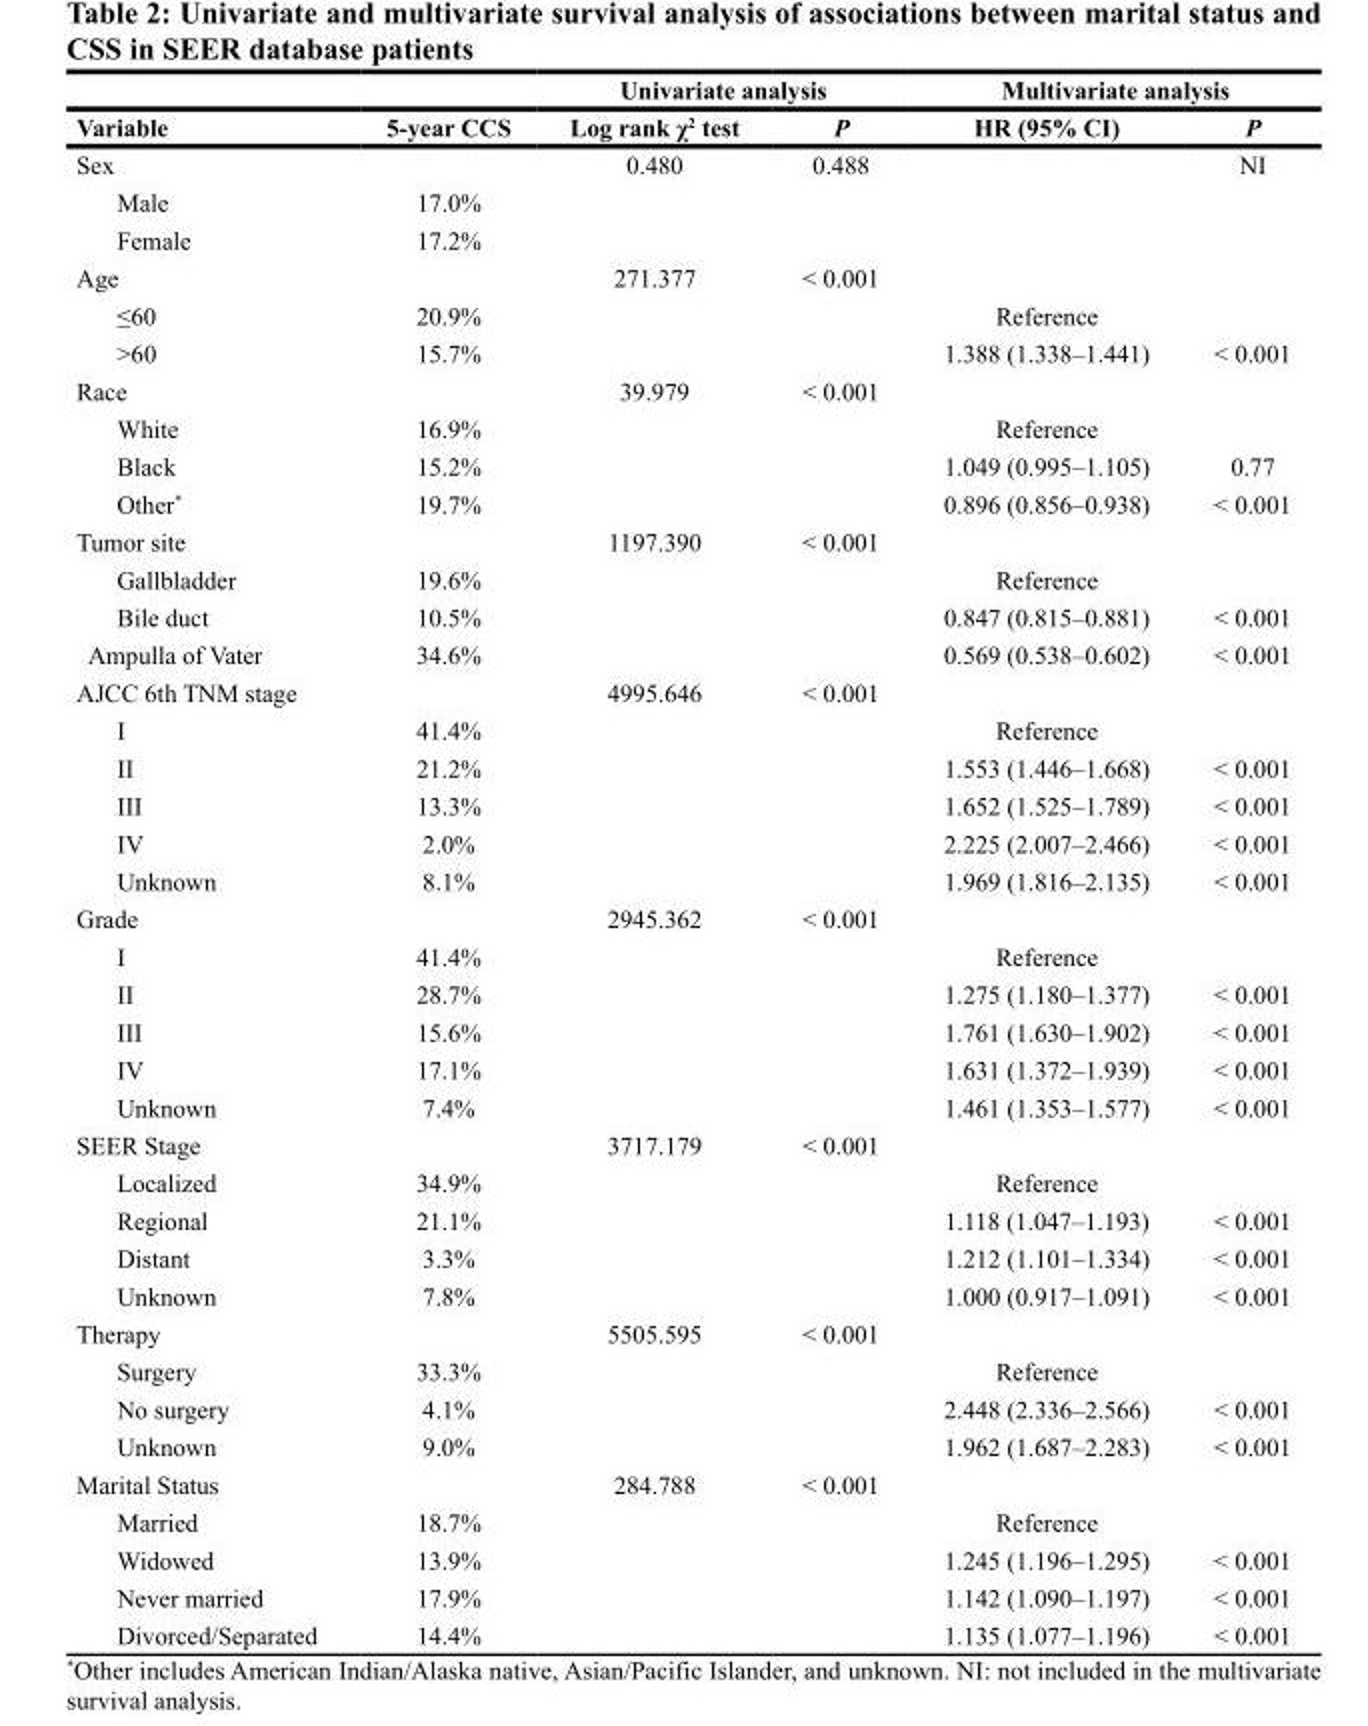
<table><thead><tr><td rowspan="2">Variable</td><td rowspan="2">5-year CCS</td><td colspan="2">Univariate analysis</td><td colspan="2">Multivariate analysis</td></tr><tr><td>Log rank χ<sup>2</sup> test</td><td>P</td><td>HR (95% CI)</td><td>P</td></tr></thead><tbody><tr><td>Sex</td><td></td><td>0.480</td><td>0.488</td><td></td><td>NI</td></tr><tr><td>Male</td><td>17.0%</td><td></td><td></td><td></td><td></td></tr><tr><td>Female</td><td>17.2%</td><td></td><td></td><td></td><td></td></tr><tr><td>Age</td><td></td><td>271.377</td><td>&lt; 0.001</td><td></td><td></td></tr><tr><td>≤60</td><td>20.9%</td><td></td><td></td><td>Reference</td><td></td></tr><tr><td>&gt;60</td><td>15.7%</td><td></td><td></td><td>1.388 (1.338–1.441)</td><td>&lt; 0.001</td></tr><tr><td>Race</td><td></td><td>39.979</td><td>&lt; 0.001</td><td></td><td></td></tr><tr><td>White</td><td>16.9%</td><td></td><td></td><td>Reference</td><td></td></tr><tr><td>Black</td><td>15.2%</td><td></td><td></td><td>1.049 (0.995–1.105)</td><td>0.77</td></tr><tr><td>Other*</td><td>19.7%</td><td></td><td></td><td>0.896 (0.856–0.938)</td><td>&lt; 0.001</td></tr><tr><td>Tumor site</td><td></td><td>1197.390</td><td>&lt; 0.001</td><td></td><td></td></tr><tr><td>Gallbladder</td><td>19.6%</td><td></td><td></td><td>Reference</td><td></td></tr><tr><td>Bile duct</td><td>10.5%</td><td></td><td></td><td>0.847 (0.815–0.881)</td><td>&lt; 0.001</td></tr><tr><td>Ampulla of Vater</td><td>34.6%</td><td></td><td></td><td>0.569 (0.538–0.602)</td><td>&lt; 0.001</td></tr><tr><td>AJCC 6th TNM stage</td><td></td><td>4995.646</td><td>&lt; 0.001</td><td></td><td></td></tr><tr><td>I</td><td>41.4%</td><td></td><td></td><td>Reference</td><td></td></tr><tr><td>II</td><td>21.2%</td><td></td><td></td><td>1.553 (1.446–1.668)</td><td>&lt; 0.001</td></tr><tr><td>III</td><td>13.3%</td><td></td><td></td><td>1.652 (1.525–1.789)</td><td>&lt; 0.001</td></tr><tr><td>IV</td><td>2.0%</td><td></td><td></td><td>2.225 (2.007–2.466)</td><td>&lt; 0.001</td></tr><tr><td>Unknown</td><td>8.1%</td><td></td><td></td><td>1.969 (1.816–2.135)</td><td>&lt; 0.001</td></tr><tr><td>Grade</td><td></td><td>2945.362</td><td>&lt; 0.001</td><td></td><td></td></tr><tr><td>I</td><td>41.4%</td><td></td><td></td><td>Reference</td><td></td></tr><tr><td>II</td><td>28.7%</td><td></td><td></td><td>1.275 (1.180–1.377)</td><td>&lt; 0.001</td></tr><tr><td>III</td><td>15.6%</td><td></td><td></td><td>1.761 (1.630–1.902)</td><td>&lt; 0.001</td></tr><tr><td>IV</td><td>17.1%</td><td></td><td></td><td>1.631 (1.372–1.939)</td><td>&lt; 0.001</td></tr><tr><td>Unknown</td><td>7.4%</td><td></td><td></td><td>1.461 (1.353–1.577)</td><td>&lt; 0.001</td></tr><tr><td>SEER Stage</td><td></td><td>3717.179</td><td>&lt; 0.001</td><td></td><td></td></tr><tr><td>Localized</td><td>34.9%</td><td></td><td></td><td>Reference</td><td></td></tr><tr><td>Regional</td><td>21.1%</td><td></td><td></td><td>1.118 (1.047–1.193)</td><td>&lt; 0.001</td></tr><tr><td>Distant</td><td>3.3%</td><td></td><td></td><td>1.212 (1.101–1.334)</td><td>&lt; 0.001</td></tr><tr><td>Unknown</td><td>7.8%</td><td></td><td></td><td>1.000 (0.917–1.091)</td><td>&lt; 0.001</td></tr><tr><td>Therapy</td><td></td><td>5505.595</td><td>&lt; 0.001</td><td></td><td></td></tr><tr><td>Surgery</td><td>33.3%</td><td></td><td></td><td>Reference</td><td></td></tr><tr><td>No surgery</td><td>4.1%</td><td></td><td></td><td>2.448 (2.336–2.566)</td><td>&lt; 0.001</td></tr><tr><td>Unknown</td><td>9.0%</td><td></td><td></td><td>1.962 (1.687–2.283)</td><td>&lt; 0.001</td></tr><tr><td>Marital Status</td><td></td><td>284.788</td><td>&lt; 0.001</td><td></td><td></td></tr><tr><td>Married</td><td>18.7%</td><td></td><td></td><td>Reference</td><td></td></tr><tr><td>Widowed</td><td>13.9%</td><td></td><td></td><td>1.245 (1.196–1.295)</td><td>&lt; 0.001</td></tr><tr><td>Never married</td><td>17.9%</td><td></td><td></td><td>1.142 (1.090–1.197)</td><td>&lt; 0.001</td></tr><tr><td>Divorced/Separated</td><td>14.4%</td><td></td><td></td><td>1.135 (1.077–1.196)</td><td>&lt; 0.001</td></tr></tbody></table>